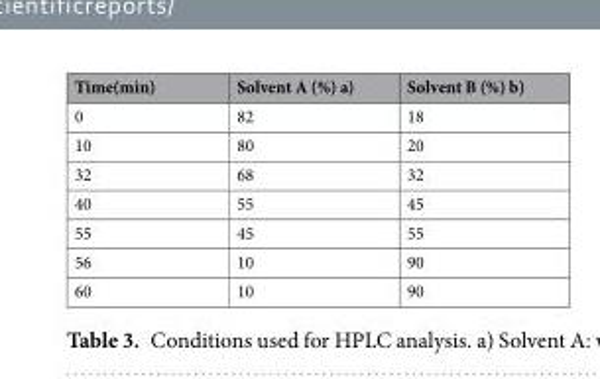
<table><thead><tr><td>Time(min)</td><td>Solvent A (%) a)</td><td>Solvent B (%) b)</td></tr></thead><tbody><tr><td>0</td><td>82</td><td>18</td></tr><tr><td>10</td><td>80</td><td>20</td></tr><tr><td>32</td><td>68</td><td>32</td></tr><tr><td>40</td><td>55</td><td>45</td></tr><tr><td>55</td><td>45</td><td>55</td></tr><tr><td>56</td><td>10</td><td>90</td></tr><tr><td>60</td><td>10</td><td>90</td></tr></tbody></table>